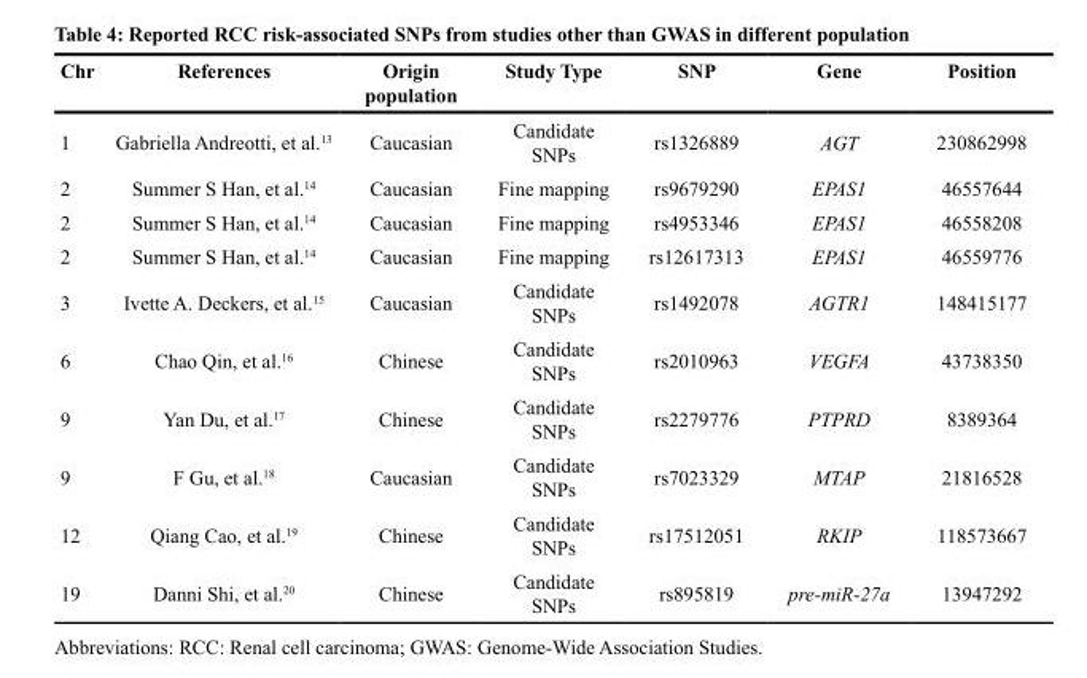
<table><thead><tr><td>Chr</td><td>References</td><td>Origin population</td><td>Study Type</td><td>SNP</td><td>Gene</td><td>Position</td></tr></thead><tbody><tr><td>1</td><td>Gabriella Andreotti, et al.<sup>13</sup></td><td>Caucasian</td><td>Candidate SNPs</td><td>rs1326889</td><td>AGT</td><td>230862998</td></tr><tr><td>2</td><td>Summer S Han, et al.<sup>14</sup></td><td>Caucasian</td><td>Fine mapping</td><td>rs9679290</td><td>EPAS1</td><td>46557644</td></tr><tr><td>2</td><td>Summer S Han, et al.<sup>14</sup></td><td>Caucasian</td><td>Fine mapping</td><td>rs4953346</td><td>EPAS1</td><td>46558208</td></tr><tr><td>2</td><td>Summer S Han, et al.<sup>14</sup></td><td>Caucasian</td><td>Fine mapping</td><td>rs12617313</td><td>EPAS1</td><td>46559776</td></tr><tr><td>3</td><td>Ivette A. Deckers, et al.<sup>15</sup></td><td>Caucasian</td><td>Candidate SNPs</td><td>rs1492078</td><td>AGTR1</td><td>148415177</td></tr><tr><td>6</td><td>Chao Qin, et al.<sup>16</sup></td><td>Chinese</td><td>Candidate SNPs</td><td>rs2010963</td><td>VEGFA</td><td>43738350</td></tr><tr><td>9</td><td>Yan Du, et al.<sup>17</sup></td><td>Chinese</td><td>Candidate SNPs</td><td>rs2279776</td><td>PTPRD</td><td>8389364</td></tr><tr><td>9</td><td>F Gu, et al.<sup>18</sup></td><td>Caucasian</td><td>Candidate SNPs</td><td>rs7023329</td><td>MTAP</td><td>21816528</td></tr><tr><td>12</td><td>Qiang Cao, et al.<sup>19</sup></td><td>Chinese</td><td>Candidate SNPs</td><td>rs17512051</td><td>RKIP</td><td>118573667</td></tr><tr><td>19</td><td>Danni Shi, et al.<sup>20</sup></td><td>Chinese</td><td>Candidate SNPs</td><td>rs895819</td><td>pre-miR-27a</td><td>13947292</td></tr></tbody></table>